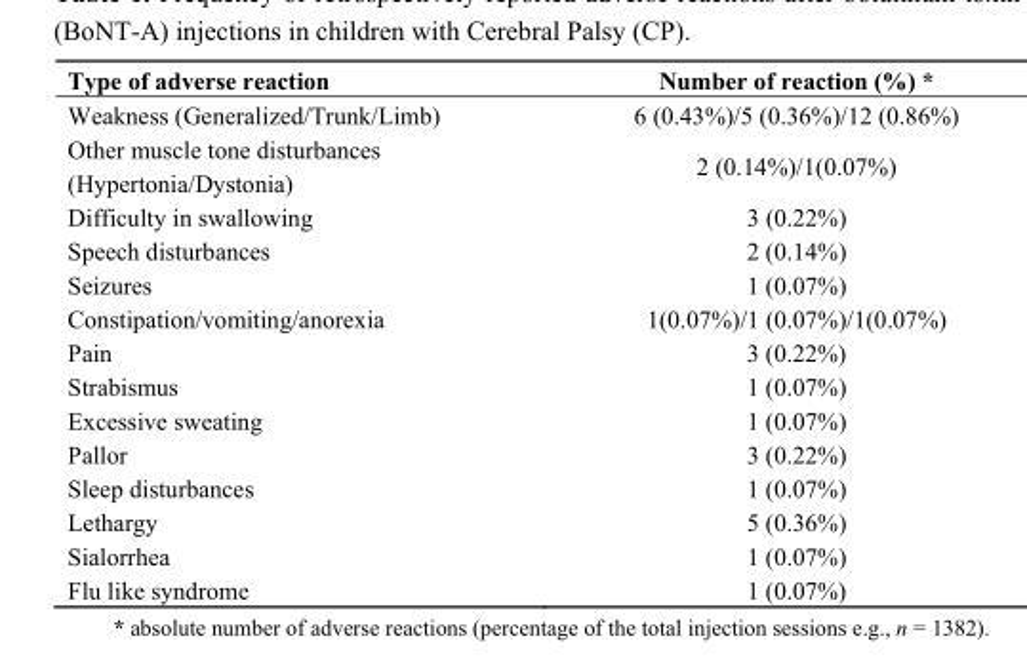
<table><thead><tr><td>Type of adverse reaction</td><td>Number of reaction (%) *</td></tr></thead><tbody><tr><td>Weakness (Generalized/Trunk/Limb)</td><td>6 (0.43%)/5 (0.36%)/12 (0.86%)</td></tr><tr><td>Other muscle tone disturbances (Hypertonia/Dystonia)</td><td>2 (0.14%)/1(0.07%)</td></tr><tr><td>Difficulty in swallowing</td><td>3 (0.22%)</td></tr><tr><td>Speech disturbances</td><td>2 (0.14%)</td></tr><tr><td>Seizures</td><td>1 (0.07%)</td></tr><tr><td>Constipation/vomiting/anorexia</td><td>1(0.07%)/1 (0.07%)/1(0.07%)</td></tr><tr><td>Pain</td><td>3 (0.22%)</td></tr><tr><td>Strabismus</td><td>1 (0.07%)</td></tr><tr><td>Excessive sweating</td><td>1 (0.07%)</td></tr><tr><td>Pallor</td><td>3 (0.22%)</td></tr><tr><td>Sleep disturbances</td><td>1 (0.07%)</td></tr><tr><td>Lethargy</td><td>5 (0.36%)</td></tr><tr><td>Sialorrhea</td><td>1 (0.07%)</td></tr><tr><td>Flu like syndrome</td><td>1 (0.07%)</td></tr></tbody></table>